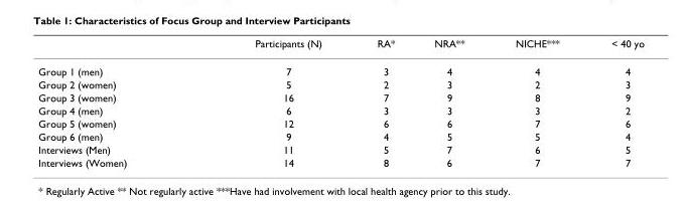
<table><thead><tr><td></td><td>Participants (N)</td><td>RA*</td><td>NRA**</td><td>NICHE***</td><td>&lt; 40 yo</td></tr></thead><tbody><tr><td>Group 1 (men)</td><td>7</td><td>3</td><td>4</td><td>4</td><td>4</td></tr><tr><td>Group 2 (women)</td><td>5</td><td>2</td><td>3</td><td>2</td><td>3</td></tr><tr><td>Group 3 (women)</td><td>16</td><td>7</td><td>9</td><td>8</td><td>9</td></tr><tr><td>Group 4 (men)</td><td>6</td><td>3</td><td>3</td><td>3</td><td>2</td></tr><tr><td>Group 5 (women)</td><td>12</td><td>6</td><td>6</td><td>7</td><td>6</td></tr><tr><td>Group 6 (men)</td><td>9</td><td>4</td><td>5</td><td>5</td><td>4</td></tr><tr><td>Interviews (Men)</td><td>11</td><td>5</td><td>7</td><td>6</td><td>5</td></tr><tr><td>Interviews (Women)</td><td>14</td><td>8</td><td>6</td><td>7</td><td>7</td></tr></tbody></table>